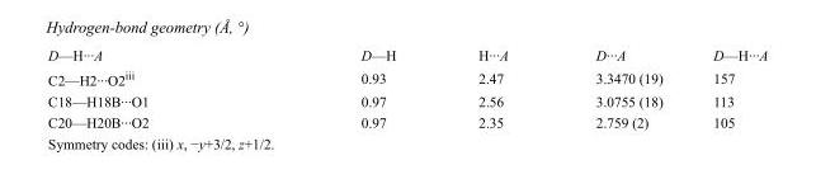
<table><tbody><tr><td>D—H···A</td><td>D—H</td><td>H···A</td><td>D···A</td><td>D—H···A</td></tr><tr><td>C2—H2···O2<sup>iii</sup></td><td>0.93</td><td>2.47</td><td>3.3470 (19)</td><td>157</td></tr><tr><td>C18—H18B···O1</td><td>0.97</td><td>2.56</td><td>3.0755 (18)</td><td>113</td></tr><tr><td>C20—H20B···O2</td><td>0.97</td><td>2.35</td><td>2.759 (2)</td><td>105</td></tr></tbody></table>